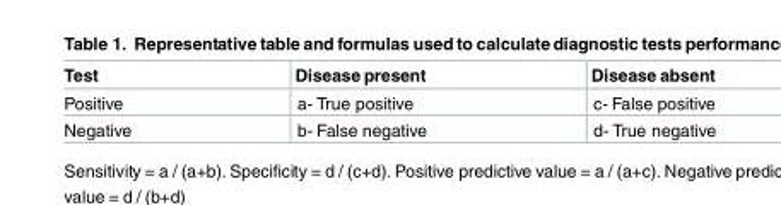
<table><thead><tr><td>Test</td><td>Disease present</td><td>Disease absent</td></tr></thead><tbody><tr><td>Positive</td><td>a- True positive</td><td>c- False positive</td></tr><tr><td>Negative</td><td>b- False negative</td><td>d- True negative</td></tr></tbody></table>